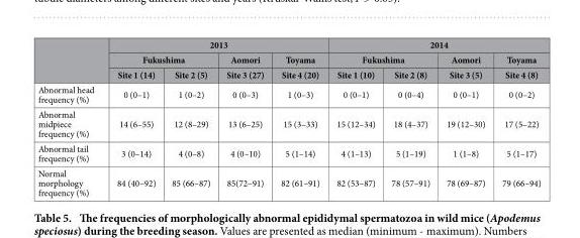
<table><thead><tr><td rowspan="3"></td><td colspan="4">2013</td><td colspan="4">2014</td></tr><tr><td colspan="2">Fukushima</td><td rowspan="2">Aomori Site 3 (27)</td><td rowspan="2">Toyama Site 4 (20)</td><td colspan="2">Fukushima</td><td rowspan="2">Aomori Site 3 (5)</td><td rowspan="2">Toyama Site 4 (8)</td></tr><tr><td>Site 1 (14)</td><td>Site 2 (5)</td><td>Site 1 (10)</td><td>Site 2 (8)</td></tr></thead><tbody><tr><td>Abnormal head frequency (%)</td><td>0 (0–1)</td><td>1 (0–2)</td><td>0 (0–3)</td><td>1 (0–3)</td><td>0 (0–1)</td><td>0 (0–4)</td><td>0 (0–1)</td><td>0 (0–2)</td></tr><tr><td>Abnormal midpiece frequency (%)</td><td>14 (6–55)</td><td>12 (8–29)</td><td>13 (6–25)</td><td>15 (3–33)</td><td>15 (12–34)</td><td>18 (4–37)</td><td>19 (12–30)</td><td>17 (5–22)</td></tr><tr><td>Abnormal tail frequency (%)</td><td>3 (0–14)</td><td>4 (0–8)</td><td>4 (0–10)</td><td>5 (1–14)</td><td>4 (1–13)</td><td>5 (1–19)</td><td>1 (1–8)</td><td>5 (1–17)</td></tr><tr><td>Normal morphology frequency (%)</td><td>84 (40–92)</td><td>85 (66–87)</td><td>85(72–91)</td><td>82 (61–91)</td><td>82 (53–87)</td><td>78 (57–91)</td><td>78 (69–87)</td><td>79 (66–94)</td></tr></tbody></table>